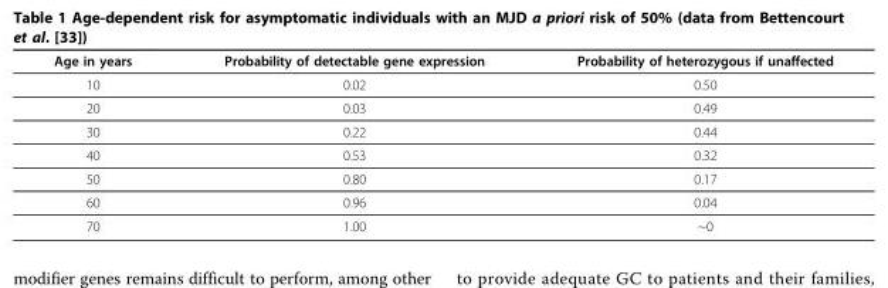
<table><thead><tr><td>Age in years</td><td>Probability of detectable gene expression</td><td>Probability of heterozygous if unaffected</td></tr></thead><tbody><tr><td>10</td><td>0.02</td><td>0.50</td></tr><tr><td>20</td><td>0.03</td><td>0.49</td></tr><tr><td>30</td><td>0.22</td><td>0.44</td></tr><tr><td>40</td><td>0.53</td><td>0.32</td></tr><tr><td>50</td><td>0.80</td><td>0.17</td></tr><tr><td>60</td><td>0.96</td><td>0.04</td></tr><tr><td>70</td><td>1.00</td><td>~0</td></tr></tbody></table>